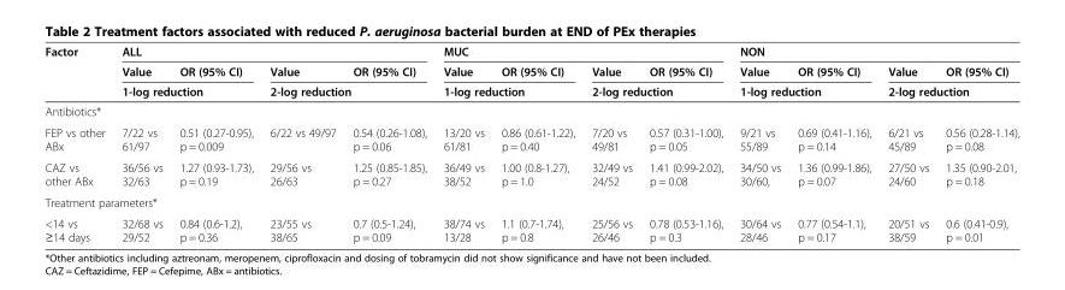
<table><thead><tr><td rowspan="3">Factor</td><td colspan="4">ALL</td><td colspan="4">MUC</td><td colspan="4">NON</td></tr><tr><td>Value</td><td>OR (95% CI)</td><td>Value</td><td>OR (95% CI)</td><td>Value</td><td>OR (95% CI)</td><td>Value</td><td>OR (95% CI)</td><td>Value</td><td>OR (95% CI)</td><td>Value</td><td>OR (95% CI)</td></tr><tr><td colspan="2">1-log reduction</td><td colspan="2">2-log reduction</td><td colspan="2">1-log reduction</td><td colspan="2">2-log reduction</td><td colspan="2">1-log reduction</td><td colspan="2">2-log reduction</td></tr></thead><tbody><tr><td colspan="13">Antibiotics*</td></tr><tr><td>FEP vs other ABx</td><td>7/22 vs 61/97</td><td>0.51 (0.27-0.95), p = 0.009</td><td>6/22 vs 49/97</td><td>0.54 (0.26-1.08), p = 0.06</td><td>13/20 vs 61/81</td><td>0.86 (0.61-1.22), p = 0.40</td><td>7/20 vs 49/81</td><td>0.57 (0.31-1.00), p = 0.05</td><td>9/21 vs 55/89</td><td>0.69 (0.41-1.16), p = 0.14</td><td>6/21 vs 45/89</td><td>0.56 (0.28-1.14), p = 0.08</td></tr><tr><td>CAZ vs other ABx</td><td>36/56 vs 32/63</td><td>1.27 (0.93-1.73), p = 0.19</td><td>29/56 vs 26/63</td><td>1.25 (0.85-1.85), p = 0.27</td><td>36/49 vs 38/52</td><td>1.00 (0.8-1.27), p = 1.0</td><td>32/49 vs 24/52</td><td>1.41 (0.99-2.02), p = 0.08</td><td>34/50 vs 30/60,</td><td>1.36 (0.99-1.86), p = 0.07</td><td>27/50 vs 24/60</td><td>1.35 (0.90-2.01, p = 0.18</td></tr><tr><td colspan="13">Treatment parameters*</td></tr><tr><td>&lt;14 vs ≥14 days</td><td>32/68 vs 29/52</td><td>0.84 (0.6-1.2), p = 0.36</td><td>23/55 vs 38/65</td><td>0.7 (0.5-1.24), p = 0.09</td><td>38/74 vs 13/28</td><td>1.1 (0.7-1.74), p = 0.8</td><td>25/56 vs 26/46</td><td>0.78 (0.53-1.16), p = 0.3</td><td>30/64 vs 28/46</td><td>0.77 (0.54-1.1), p = 0.17</td><td>20/51 vs 38/59</td><td>0.6 (0.41-0.9), p = 0.01</td></tr></tbody></table>